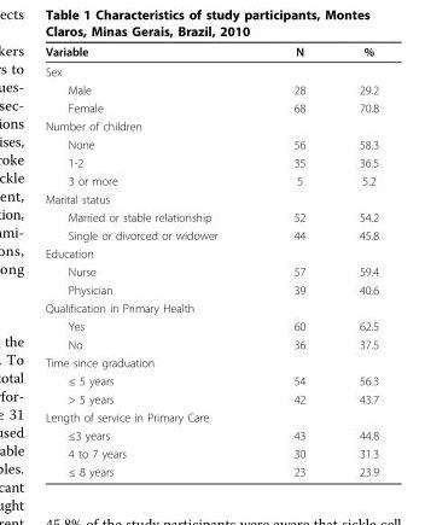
<table><thead><tr><td>Variable</td><td>N</td><td>%</td></tr></thead><tbody><tr><td colspan="3">Sex</td></tr><tr><td>Male</td><td>28</td><td>29.2</td></tr><tr><td>Female</td><td>68</td><td>70.8</td></tr><tr><td colspan="3">Number of children</td></tr><tr><td>None</td><td>56</td><td>58.3</td></tr><tr><td>1-2</td><td>35</td><td>36.5</td></tr><tr><td>3 or more</td><td>5</td><td>5.2</td></tr><tr><td colspan="3">Marital status</td></tr><tr><td>Married or stable relationship</td><td>52</td><td>54.2</td></tr><tr><td>Single or divorced or widower</td><td>44</td><td>45.8</td></tr><tr><td colspan="3">Education</td></tr><tr><td>Nurse</td><td>57</td><td>59.4</td></tr><tr><td>Physician</td><td>39</td><td>40.6</td></tr><tr><td colspan="3">Qualification in Primary Health</td></tr><tr><td>Yes</td><td>60</td><td>62.5</td></tr><tr><td>No</td><td>36</td><td>37.5</td></tr><tr><td colspan="3">Time since graduation</td></tr><tr><td>≤ 5 years</td><td>54</td><td>56.3</td></tr><tr><td>&gt; 5 years</td><td>42</td><td>43.7</td></tr><tr><td colspan="3">Length of service in Primary Care</td></tr><tr><td>≤3 years</td><td>43</td><td>44.8</td></tr><tr><td>4 to 7 years</td><td>30</td><td>31.3</td></tr><tr><td>≤ 8 years</td><td>23</td><td>23.9</td></tr></tbody></table>